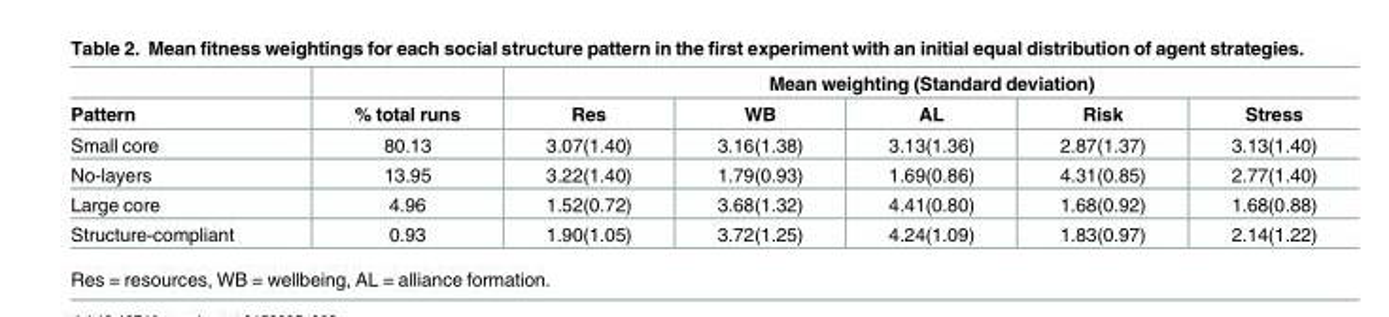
<table><thead><tr><td rowspan="2">Pattern</td><td rowspan="2">% total runs</td><td colspan="5">Mean weighting (Standard deviation)</td></tr><tr><td>Res</td><td>WB</td><td>AL</td><td>Risk</td><td>Stress</td></tr></thead><tbody><tr><td>Small core</td><td>80.13</td><td>3.07(1.40)</td><td>3.16(1.38)</td><td>3.13(1.36)</td><td>2.87(1.37)</td><td>3.13(1.40)</td></tr><tr><td>No-layers</td><td>13.95</td><td>3.22(1.40)</td><td>1.79(0.93)</td><td>1.69(0.86)</td><td>4.31(0.85)</td><td>2.77(1.40)</td></tr><tr><td>Large core</td><td>4.96</td><td>1.52(0.72)</td><td>3.68(1.32)</td><td>4.41(0.80)</td><td>1.68(0.92)</td><td>1.68(0.88)</td></tr><tr><td>Structure-compliant</td><td>0.93</td><td>1.90(1.05)</td><td>3.72(1.25)</td><td>4.24(1.09)</td><td>1.83(0.97)</td><td>2.14(1.22)</td></tr></tbody></table>